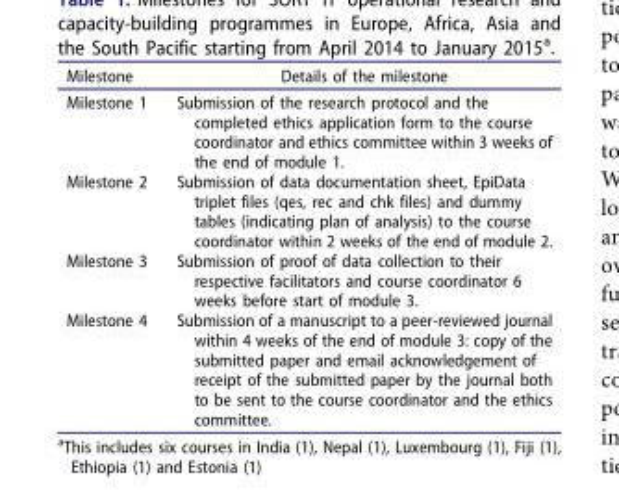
<table><thead><tr><td>Milestone</td><td>Details of the milestone</td></tr></thead><tbody><tr><td>Milestone 1</td><td>Submission of the research protocol and the completed ethics application form to the course coordinator and ethics committee within 3 weeks of the end of module 1.</td></tr><tr><td>Milestone 2</td><td>Submission of data documentation sheet, EpiData triplet files (qes, rec and chk files) and dummy tables (indicating plan of analysis) to the course coordinator within 2 weeks of the end of module 2.</td></tr><tr><td>Milestone 3</td><td>Submission of proof of data collection to their respective facilitators and course coordinator 6 weeks before start of module 3.</td></tr><tr><td>Milestone 4</td><td>Submission of a manuscript to a peer-reviewed journal within 4 weeks of the end of module 3: copy of the submitted paper and email acknowledgement of receipt of the submitted paper by the journal both to be sent to the course coordinator and the ethics committee.</td></tr></tbody></table>